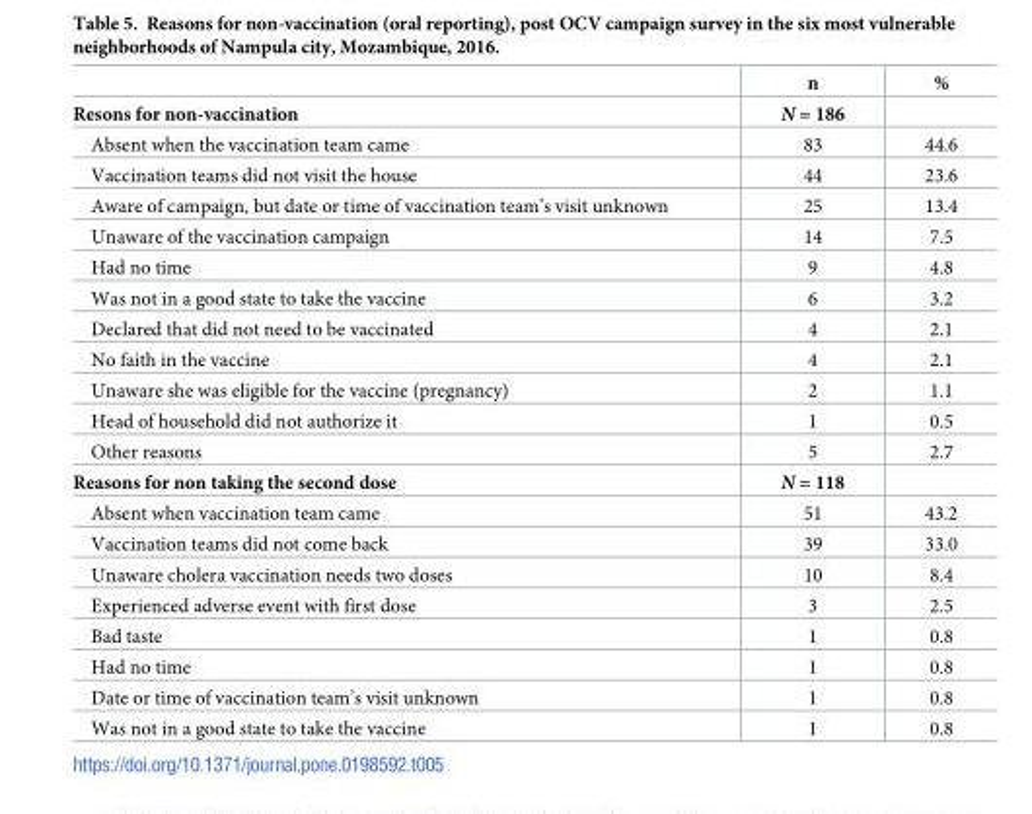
<table><thead><tr><td></td><td>n</td><td>%</td></tr></thead><tbody><tr><td>Resons for non-vaccination</td><td>N = 186</td><td></td></tr><tr><td>Absent when the vaccination team came</td><td>83</td><td>44.6</td></tr><tr><td>Vaccination teams did not visit the house</td><td>44</td><td>23.6</td></tr><tr><td>Aware of campaign, but date or time of vaccination team’s visit unknown</td><td>25</td><td>13.4</td></tr><tr><td>Unaware of the vaccination campaign</td><td>14</td><td>7.5</td></tr><tr><td>Had no time</td><td>9</td><td>4.8</td></tr><tr><td>Was not in a good state to take the vaccine</td><td>6</td><td>3.2</td></tr><tr><td>Declared that did not need to be vaccinated</td><td>4</td><td>2.1</td></tr><tr><td>No faith in the vaccine</td><td>4</td><td>2.1</td></tr><tr><td>Unaware she was eligible for the vaccine (pregnancy)</td><td>2</td><td>1.1</td></tr><tr><td>Head of household did not authorize it</td><td>1</td><td>0.5</td></tr><tr><td>Other reasons</td><td>5</td><td>2.7</td></tr><tr><td>Reasons for non taking the second dose</td><td>N = 118</td><td></td></tr><tr><td>Absent when vaccination team came</td><td>51</td><td>43.2</td></tr><tr><td>Vaccination teams did not come back</td><td>39</td><td>33.0</td></tr><tr><td>Unaware cholera vaccination needs two doses</td><td>10</td><td>8.4</td></tr><tr><td>Experienced adverse event with first dose</td><td>3</td><td>2.5</td></tr><tr><td>Bad taste</td><td>1</td><td>0.8</td></tr><tr><td>Had no time</td><td>1</td><td>0.8</td></tr><tr><td>Date or time of vaccination team’s visit unknown</td><td>1</td><td>0.8</td></tr><tr><td>Was not in a good state to take the vaccine</td><td>1</td><td>0.8</td></tr></tbody></table>